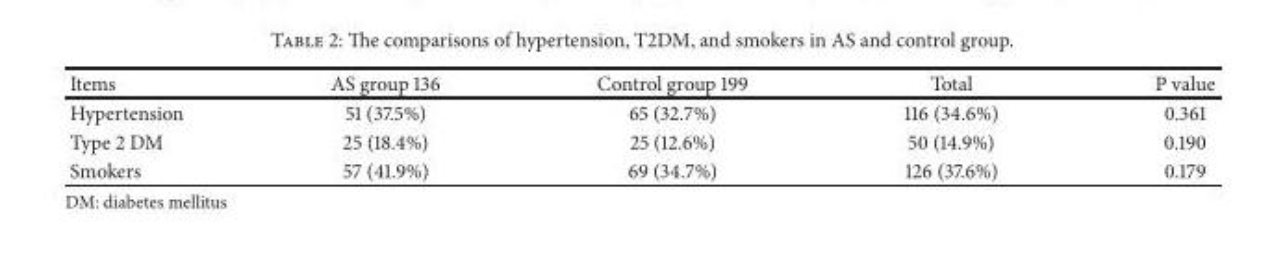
<table><thead><tr><td>Items</td><td>AS group 136</td><td>Control group 199</td><td>Total</td><td>P value</td></tr></thead><tbody><tr><td>Hypertension</td><td>51 (37.5%)</td><td>65 (32.7%)</td><td>116 (34.6%)</td><td>0.361</td></tr><tr><td>Type 2 DM</td><td>25 (18.4%)</td><td>25 (12.6%)</td><td>50 (14.9%)</td><td>0.190</td></tr><tr><td>Smokers</td><td>57 (41.9%)</td><td>69 (34.7%)</td><td>126 (37.6%)</td><td>0.179</td></tr></tbody></table>